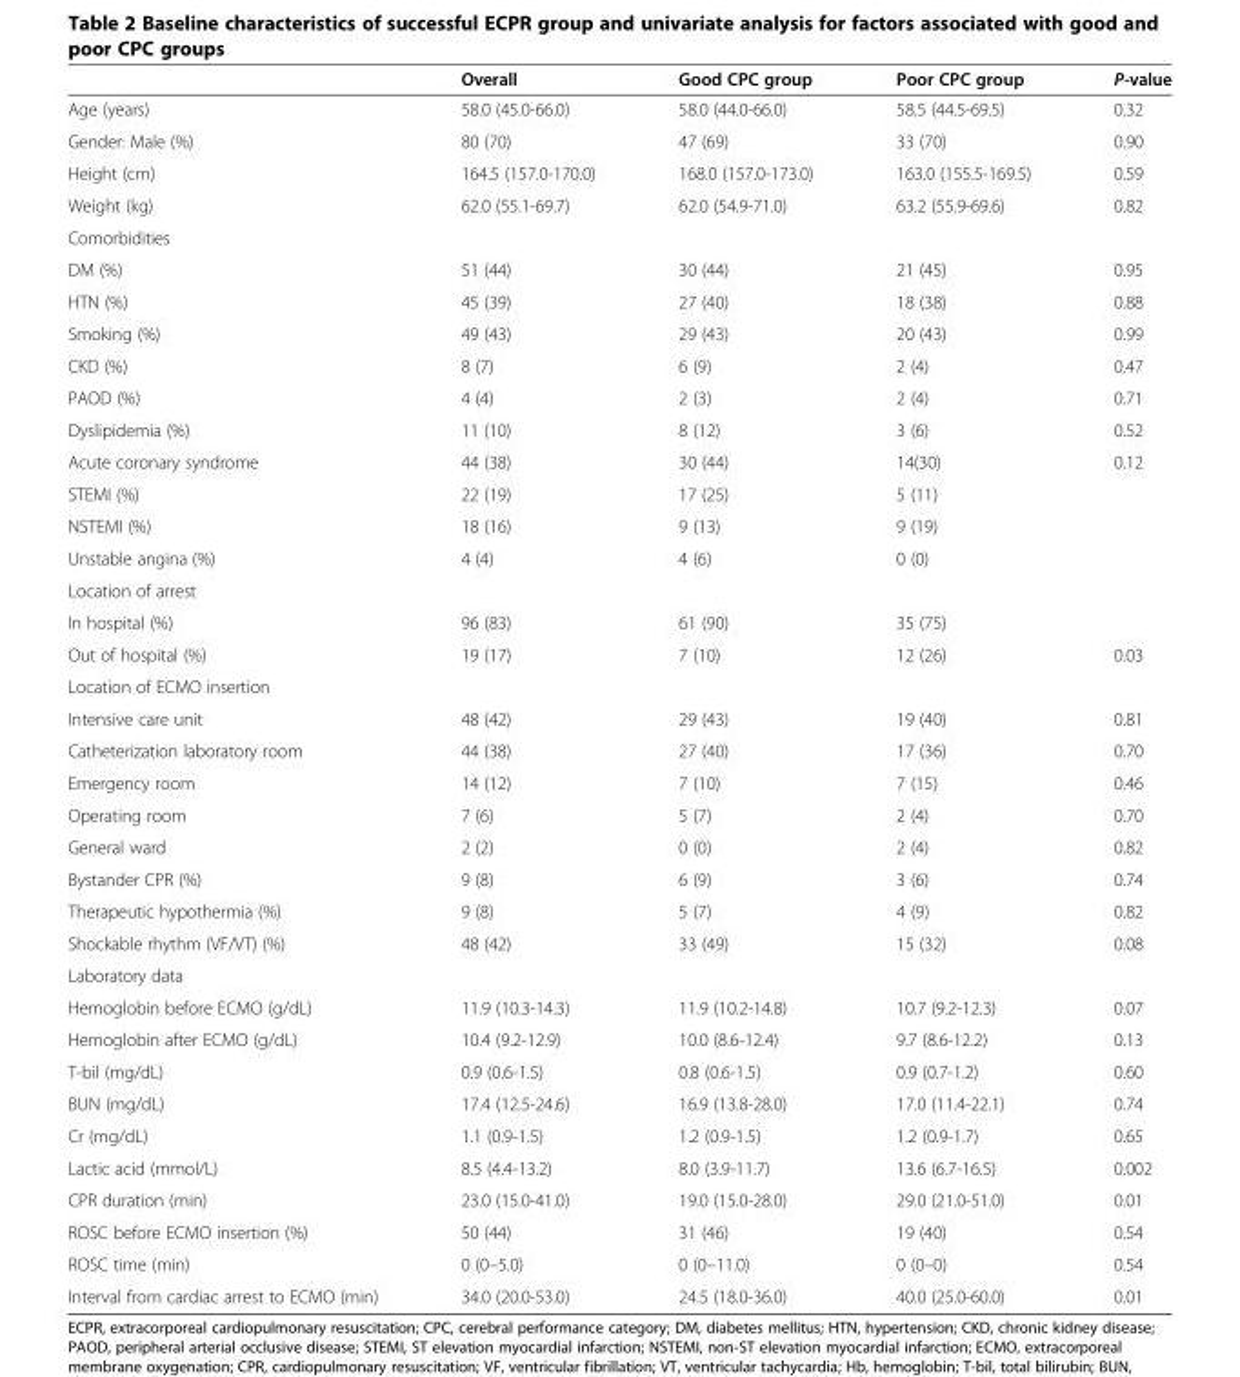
<table><thead><tr><td></td><td>Overall</td><td>Good CPC group</td><td>Poor CPC group</td><td>P-value</td></tr></thead><tbody><tr><td>Age (years)</td><td>58.0 (45.0-66.0)</td><td>58.0 (44.0-66.0)</td><td>58.5 (44.5-69.5)</td><td>0.32</td></tr><tr><td>Gender: Male (%)</td><td>80 (70)</td><td>47 (69)</td><td>33 (70)</td><td>0.90</td></tr><tr><td>Height (cm)</td><td>164.5 (157.0-170.0)</td><td>168.0 (157.0-173.0)</td><td>163.0 (155.5-169.5)</td><td>0.59</td></tr><tr><td>Weight (kg)</td><td>62.0 (55.1-69.7)</td><td>62.0 (54.9-71.0)</td><td>63.2 (55.9-69.6)</td><td>0.82</td></tr><tr><td colspan="5">Comorbidities</td></tr><tr><td>DM (%)</td><td>51 (44)</td><td>30 (44)</td><td>21 (45)</td><td>0.95</td></tr><tr><td>HTN (%)</td><td>45 (39)</td><td>27 (40)</td><td>18 (38)</td><td>0.88</td></tr><tr><td>Smoking (%)</td><td>49 (43)</td><td>29 (43)</td><td>20 (43)</td><td>0.99</td></tr><tr><td>CKD (%)</td><td>8 (7)</td><td>6 (9)</td><td>2 (4)</td><td>0.47</td></tr><tr><td>PAOD (%)</td><td>4 (4)</td><td>2 (3)</td><td>2 (4)</td><td>0.71</td></tr><tr><td>Dyslipidemia (%)</td><td>11 (10)</td><td>8 (12)</td><td>3 (6)</td><td>0.52</td></tr><tr><td>Acute coronary syndrome</td><td>44 (38)</td><td>30 (44)</td><td>14(30)</td><td>0.12</td></tr><tr><td>STEMI (%)</td><td>22 (19)</td><td>17 (25)</td><td>5 (11)</td><td></td></tr><tr><td>NSTEMI (%)</td><td>18 (16)</td><td>9 (13)</td><td>9 (19)</td><td></td></tr><tr><td>Unstable angina (%)</td><td>4 (4)</td><td>4 (6)</td><td>0 (0)</td><td></td></tr><tr><td colspan="5">Location of arrest</td></tr><tr><td>In hospital (%)</td><td>96 (83)</td><td>61 (90)</td><td>35 (75)</td><td></td></tr><tr><td>Out of hospital (%)</td><td>19 (17)</td><td>7 (10)</td><td>12 (26)</td><td>0.03</td></tr><tr><td colspan="5">Location of ECMO insertion</td></tr><tr><td>Intensive care unit</td><td>48 (42)</td><td>29 (43)</td><td>19 (40)</td><td>0.81</td></tr><tr><td>Catheterization laboratory room</td><td>44 (38)</td><td>27 (40)</td><td>17 (36)</td><td>0.70</td></tr><tr><td>Emergency room</td><td>14 (12)</td><td>7 (10)</td><td>7 (15)</td><td>0.46</td></tr><tr><td>Operating room</td><td>7 (6)</td><td>5 (7)</td><td>2 (4)</td><td>0.70</td></tr><tr><td>General ward</td><td>2 (2)</td><td>0 (0)</td><td>2 (4)</td><td>0.82</td></tr><tr><td>Bystander CPR (%)</td><td>9 (8)</td><td>6 (9)</td><td>3 (6)</td><td>0.74</td></tr><tr><td>Therapeutic hypothermia (%)</td><td>9 (8)</td><td>5 (7)</td><td>4 (9)</td><td>0.82</td></tr><tr><td>Shockable rhythm (VF/VT) (%)</td><td>48 (42)</td><td>33 (49)</td><td>15 (32)</td><td>0.08</td></tr><tr><td colspan="5">Laboratory data</td></tr><tr><td>Hemoglobin before ECMO (g/dL)</td><td>11.9 (10.3-14.3)</td><td>11.9 (10.2-14.8)</td><td>10.7 (9.2-12.3)</td><td>0.07</td></tr><tr><td>Hemoglobin after ECMO (g/dL)</td><td>10.4 (9.2-12.9)</td><td>10.0 (8.6-12.4)</td><td>9.7 (8.6-12.2)</td><td>0.13</td></tr><tr><td>T-bil (mg/dL)</td><td>0.9 (0.6-1.5)</td><td>0.8 (0.6-1.5)</td><td>0.9 (0.7-1.2)</td><td>0.60</td></tr><tr><td>BUN (mg/dL)</td><td>17.4 (12.5-24.6)</td><td>16.9 (13.8-28.0)</td><td>17.0 (11.4-22.1)</td><td>0.74</td></tr><tr><td>Cr (mg/dL)</td><td>1.1 (0.9-1.5)</td><td>1.2 (0.9-1.5)</td><td>1.2 (0.9-1.7)</td><td>0.65</td></tr><tr><td>Lactic acid (mmol/L)</td><td>8.5 (4.4-13.2)</td><td>8.0 (3.9-11.7)</td><td>13.6 (6.7-16.5)</td><td>0.002</td></tr><tr><td>CPR duration (min)</td><td>23.0 (15.0-41.0)</td><td>19.0 (15.0-28.0)</td><td>29.0 (21.0-51.0)</td><td>0.01</td></tr><tr><td>ROSC before ECMO insertion (%)</td><td>50 (44)</td><td>31 (46)</td><td>19 (40)</td><td>0.54</td></tr><tr><td>ROSC time (min)</td><td>0 (0–5.0)</td><td>0 (0–11.0)</td><td>0 (0–0)</td><td>0.54</td></tr><tr><td>Interval from cardiac arrest to ECMO (min)</td><td>34.0 (20.0-53.0)</td><td>24.5 (18.0-36.0)</td><td>40.0 (25.0-60.0)</td><td>0.01</td></tr></tbody></table>